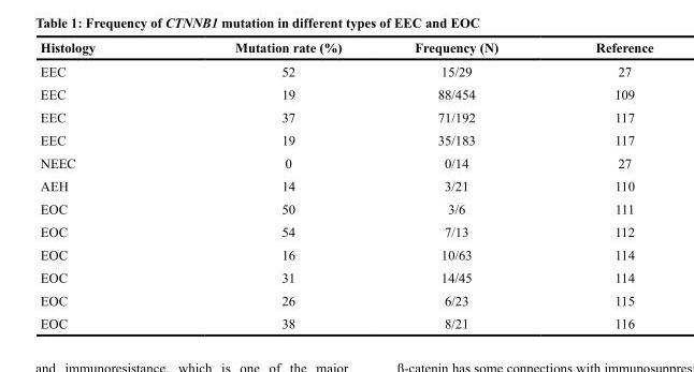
<table><thead><tr><td>Histology</td><td>Mutation rate (%)</td><td>Frequency (N)</td><td>Reference</td></tr></thead><tbody><tr><td>EEC</td><td>52</td><td>15/29</td><td>27</td></tr><tr><td>EEC</td><td>19</td><td>88/454</td><td>109</td></tr><tr><td>EEC</td><td>37</td><td>71/192</td><td>117</td></tr><tr><td>EEC</td><td>19</td><td>35/183</td><td>117</td></tr><tr><td>NEEC</td><td>0</td><td>0/14</td><td>27</td></tr><tr><td>AEH</td><td>14</td><td>3/21</td><td>110</td></tr><tr><td>EOC</td><td>50</td><td>3/6</td><td>111</td></tr><tr><td>EOC</td><td>54</td><td>7/13</td><td>112</td></tr><tr><td>EOC</td><td>16</td><td>10/63</td><td>114</td></tr><tr><td>EOC</td><td>31</td><td>14/45</td><td>114</td></tr><tr><td>EOC</td><td>26</td><td>6/23</td><td>115</td></tr><tr><td>EOC</td><td>38</td><td>8/21</td><td>116</td></tr></tbody></table>